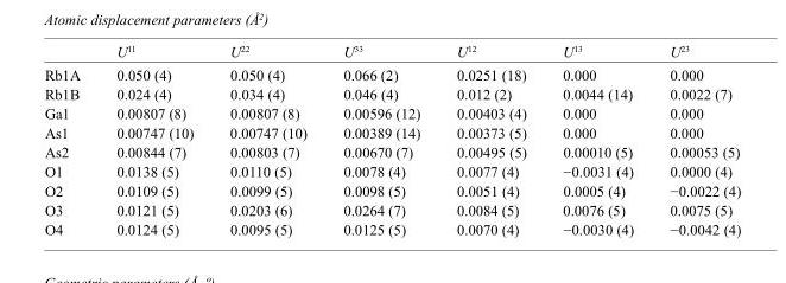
<table><thead><tr><td></td><td>U<sup>11</sup></td><td>U<sup>22</sup></td><td>U<sup>33</sup></td><td>U<sup>12</sup></td><td>U<sup>13</sup></td><td>U<sup>23</sup></td></tr></thead><tbody><tr><td>Rb1A</td><td>0.050 (4)</td><td>0.050 (4)</td><td>0.066 (2)</td><td>0.0251 (18)</td><td>0.000</td><td>0.000</td></tr><tr><td>Rb1B</td><td>0.024 (4)</td><td>0.034 (4)</td><td>0.046 (4)</td><td>0.012 (2)</td><td>0.0044 (14)</td><td>0.0022 (7)</td></tr><tr><td>Ga1</td><td>0.00807 (8)</td><td>0.00807 (8)</td><td>0.00596 (12)</td><td>0.00403 (4)</td><td>0.000</td><td>0.000</td></tr><tr><td>As1</td><td>0.00747 (10)</td><td>0.00747 (10)</td><td>0.00389 (14)</td><td>0.00373 (5)</td><td>0.000</td><td>0.000</td></tr><tr><td>As2</td><td>0.00844 (7)</td><td>0.00803 (7)</td><td>0.00670 (7)</td><td>0.00495 (5)</td><td>0.00010 (5)</td><td>0.00053 (5)</td></tr><tr><td>O1</td><td>0.0138 (5)</td><td>0.0110 (5)</td><td>0.0078 (4)</td><td>0.0077 (4)</td><td>−0.0031 (4)</td><td>0.0000 (4)</td></tr><tr><td>O2</td><td>0.0109 (5)</td><td>0.0099 (5)</td><td>0.0098 (5)</td><td>0.0051 (4)</td><td>0.0005 (4)</td><td>−0.0022 (4)</td></tr><tr><td>O3</td><td>0.0121 (5)</td><td>0.0203 (6)</td><td>0.0264 (7)</td><td>0.0084 (5)</td><td>0.0076 (5)</td><td>0.0075 (5)</td></tr><tr><td>O4</td><td>0.0124 (5)</td><td>0.0095 (5)</td><td>0.0125 (5)</td><td>0.0070 (4)</td><td>−0.0030 (4)</td><td>−0.0042 (4)</td></tr></tbody></table>